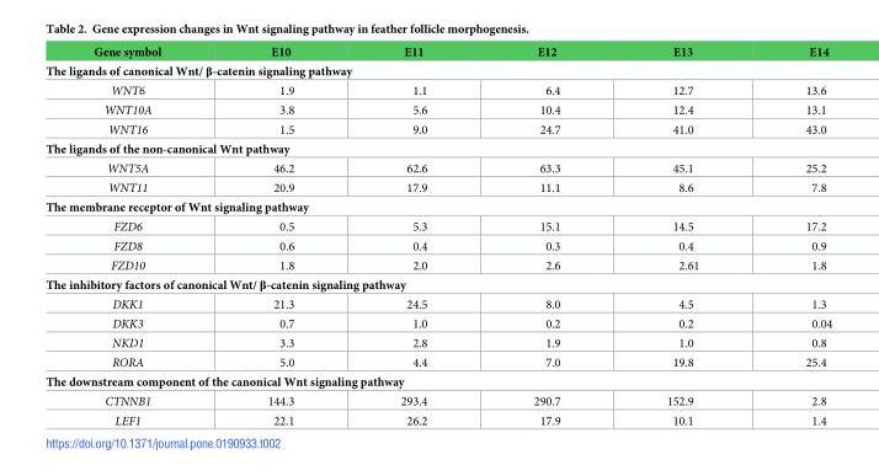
<table><thead><tr><td>Gene symbol</td><td>E10</td><td>E11</td><td>E12</td><td>E13</td><td>E14</td></tr></thead><tbody><tr><td colspan="6">The ligands of canonical Wnt/ β-catenin signaling pathway</td></tr><tr><td>WNT6</td><td>1.9</td><td>1.1</td><td>6.4</td><td>12.7</td><td>13.6</td></tr><tr><td>WNT10A</td><td>3.8</td><td>5.6</td><td>10.4</td><td>12.4</td><td>13.1</td></tr><tr><td>WNT16</td><td>1.5</td><td>9.0</td><td>24.7</td><td>41.0</td><td>43.0</td></tr><tr><td colspan="6">The ligands of the non-canonical Wnt pathway</td></tr><tr><td>WNT5A</td><td>46.2</td><td>62.6</td><td>63.3</td><td>45.1</td><td>25.2</td></tr><tr><td>WNT11</td><td>20.9</td><td>17.9</td><td>11.1</td><td>8.6</td><td>7.8</td></tr><tr><td colspan="6">The membrane receptor of Wnt signaling pathway</td></tr><tr><td>FZD6</td><td>0.5</td><td>5.3</td><td>15.1</td><td>14.5</td><td>17.2</td></tr><tr><td>FZD8</td><td>0.6</td><td>0.4</td><td>0.3</td><td>0.4</td><td>0.9</td></tr><tr><td>FZD10</td><td>1.8</td><td>2.0</td><td>2.6</td><td>2.61</td><td>1.8</td></tr><tr><td colspan="6">The inhibitory factors of canonical Wnt/ β-catenin signaling pathway</td></tr><tr><td>DKK1</td><td>21.3</td><td>24.5</td><td>8.0</td><td>4.5</td><td>1.3</td></tr><tr><td>DKK3</td><td>0.7</td><td>1.0</td><td>0.2</td><td>0.2</td><td>0.04</td></tr><tr><td>NKD1</td><td>3.3</td><td>2.8</td><td>1.9</td><td>1.0</td><td>0.8</td></tr><tr><td>RORA</td><td>5.0</td><td>4.4</td><td>7.0</td><td>19.8</td><td>25.4</td></tr><tr><td colspan="6">The downstream component of the canonical Wnt signaling pathway</td></tr><tr><td>CTNNB1</td><td>144.3</td><td>293.4</td><td>290.7</td><td>152.9</td><td>2.8</td></tr><tr><td>LEF1</td><td>22.1</td><td>26.2</td><td>17.9</td><td>10.1</td><td>1.4</td></tr></tbody></table>